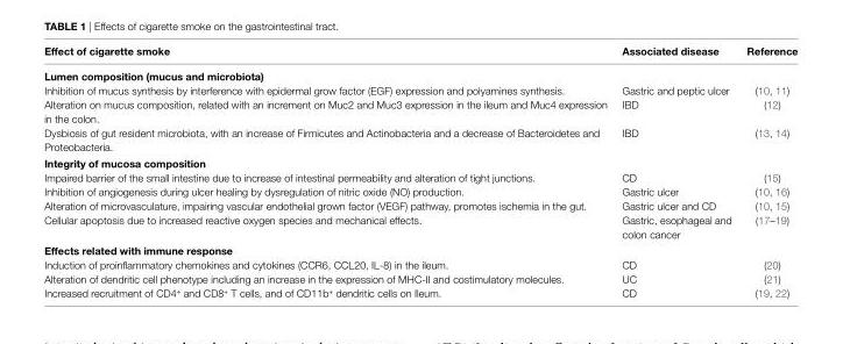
<table><thead><tr><td>effect of cigarette smoke</td><td>Associated disease</td><td>Reference</td></tr></thead><tbody><tr><td colspan="3">Lumen composition (mucus and microbiota)</td></tr><tr><td>Inhibition of mucus synthesis by interference with epidermal grow factor (EGF) expression and polyamines synthesis.</td><td>Gastric and peptic ulcer</td><td>(10, 11)</td></tr><tr><td>Alteration on mucus composition, related with an increment on Muc2 and Muc3 expression in the ileum and Muc4 expression in the colon.</td><td>IBD</td><td>(12)</td></tr><tr><td>Dysbiosis of gut resident microbiota, with an increase of Firmicutes and Actinobacteria and a decrease of Bacteroidetes and Proteobacteria.</td><td>IBD</td><td>(13, 14)</td></tr><tr><td colspan="3">integrity of mucosa composition</td></tr><tr><td>Impaired barrier of the small intestine due to increase of intestinal permeability and alteration of tight junctions.</td><td>CD</td><td>(15)</td></tr><tr><td>Inhibition of angiogenesis during ulcer healing by dysregulation of nitric oxide (NO) production.</td><td>Gastric ulcer</td><td>(10, 16)</td></tr><tr><td>Alteration of microvasculature, impairing vascular endothelial grown factor (VEGF) pathway, promotes ischemia in the gut.</td><td>Gastric ulcer and CD</td><td>(10, 15)</td></tr><tr><td>Cellular apoptosis due to increased reactive oxygen species and mechanical effects.</td><td>Gastric, esophageal and colon cancer</td><td>(17–19)</td></tr><tr><td colspan="3">effects related with immune response</td></tr><tr><td>Induction of proinflammatory chemokines and cytokines (CCR6, CCL20, IL-8) in the ileum.</td><td>CD</td><td>(20)</td></tr><tr><td>Alteration of dendritic cell phenotype including an increase in the expression of MHC-II and costimulatory molecules.</td><td>UC</td><td>(21)</td></tr><tr><td>Increased recruitment of CD4<sup>+</sup> and CD8<sup>+</sup> T cells, and of CD11b<sup>+</sup> dendritic cells on Ileum.</td><td>CD</td><td>(19, 22)</td></tr></tbody></table>